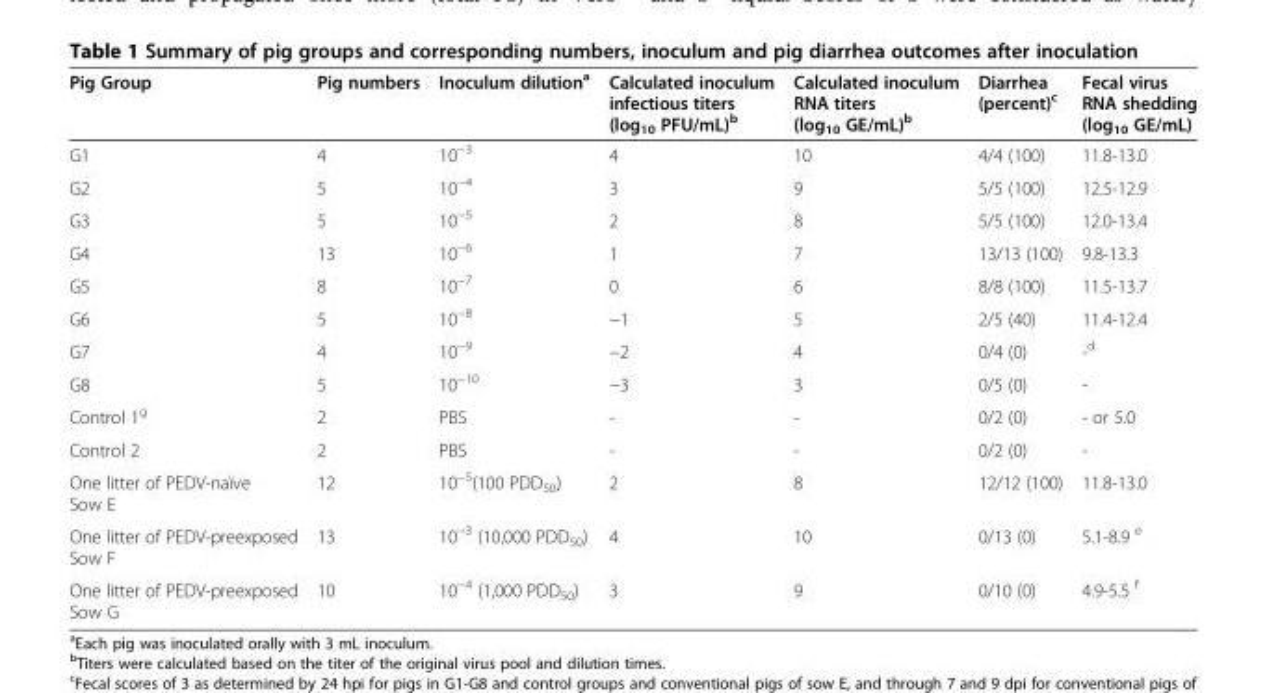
<table><thead><tr><td>Pig Group</td><td>Pig numbers</td><td>Inoculum dilution<sup>a</sup></td><td>Calculated inoculum infectious titers (log<sub>10</sub> PFU/mL)<sup>b</sup></td><td>Calculated inoculum RNA titers (log<sub>10</sub> GE/mL)<sup>b</sup></td><td>Diarrhea (percent)<sup>c</sup></td><td>Fecal virus RNA shedding (log<sub>10</sub> GE/mL)</td></tr></thead><tbody><tr><td>G1</td><td>4</td><td>10<sup>−3</sup></td><td>4</td><td>10</td><td>4/4 (100)</td><td>11.8-13.0</td></tr><tr><td>G2</td><td>5</td><td>10<sup>−4</sup></td><td>3</td><td>9</td><td>5/5 (100)</td><td>12.5-12.9</td></tr><tr><td>G3</td><td>5</td><td>10<sup>−5</sup></td><td>2</td><td>8</td><td>5/5 (100)</td><td>12.0-13.4</td></tr><tr><td>G4</td><td>13</td><td>10<sup>−6</sup></td><td>1</td><td>7</td><td>13/13 (100)</td><td>9.8-13.3</td></tr><tr><td>G5</td><td>8</td><td>10<sup>−7</sup></td><td>0</td><td>6</td><td>8/8 (100)</td><td>11.5-13.7</td></tr><tr><td>G6</td><td>5</td><td>10<sup>−8</sup></td><td>−1</td><td>5</td><td>2/5 (40)</td><td>11.4-12.4</td></tr><tr><td>G7</td><td>4</td><td>10<sup>−9</sup></td><td>−2</td><td>4</td><td>0/4 (0)</td><td>-<sup>d</sup></td></tr><tr><td>G8</td><td>5</td><td>10<sup>−10</sup></td><td>−3</td><td>3</td><td>0/5 (0)</td><td>-</td></tr><tr><td>Control 1<sup>g</sup></td><td>2</td><td>PBS</td><td>-</td><td>-</td><td>0/2 (0)</td><td>- or 5.0</td></tr><tr><td>Control 2</td><td>2</td><td>PBS</td><td>-</td><td>-</td><td>0/2 (0)</td><td>-</td></tr><tr><td>One litter of PEDV-naïve Sow E</td><td>12</td><td>10<sup>−5</sup>(100 PDD<sub>50</sub>)</td><td>2</td><td>8</td><td>12/12 (100)</td><td>11.8-13.0</td></tr><tr><td>One litter of PEDV-preexposed Sow F</td><td>13</td><td>10<sup>−3</sup> (10,000 PDD<sub>50</sub>)</td><td>4</td><td>10</td><td>0/13 (0)</td><td>5.1-8.9 <sup>e</sup></td></tr><tr><td>One litter of PEDV-preexposed Sow G</td><td>10</td><td>10<sup>−4</sup> (1,000 PDD<sub>50</sub>)</td><td>3</td><td>9</td><td>0/10 (0)</td><td>4.9-5.5 <sup>f</sup></td></tr></tbody></table>